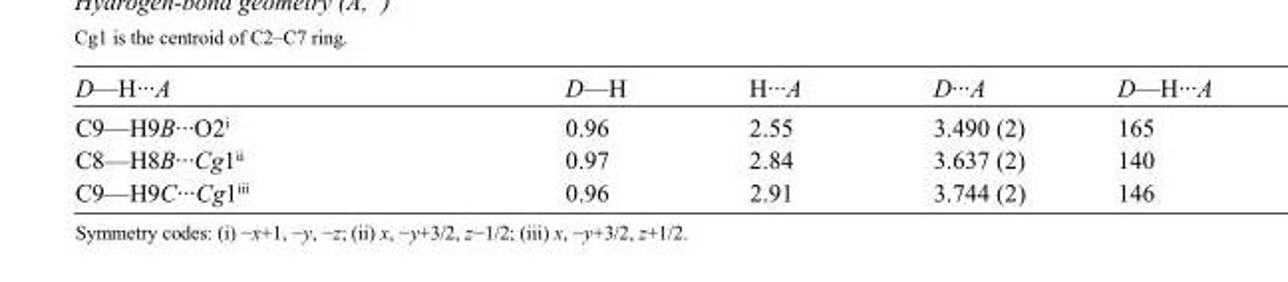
<table><tbody><tr><td>D—H···A</td><td>D—H</td><td>H···A</td><td>D···A</td><td>D—H···A</td></tr><tr><td>C9—H9B···O2<sup>i</sup></td><td>0.96</td><td>2.55</td><td>3.490 (2)</td><td>165</td></tr><tr><td>C8—H8B···Cg1<sup>ii</sup></td><td>0.97</td><td>2.84</td><td>3.637 (2)</td><td>140</td></tr><tr><td>C9—H9C···Cg1<sup>iii</sup></td><td>0.96</td><td>2.91</td><td>3.744 (2)</td><td>146</td></tr></tbody></table>